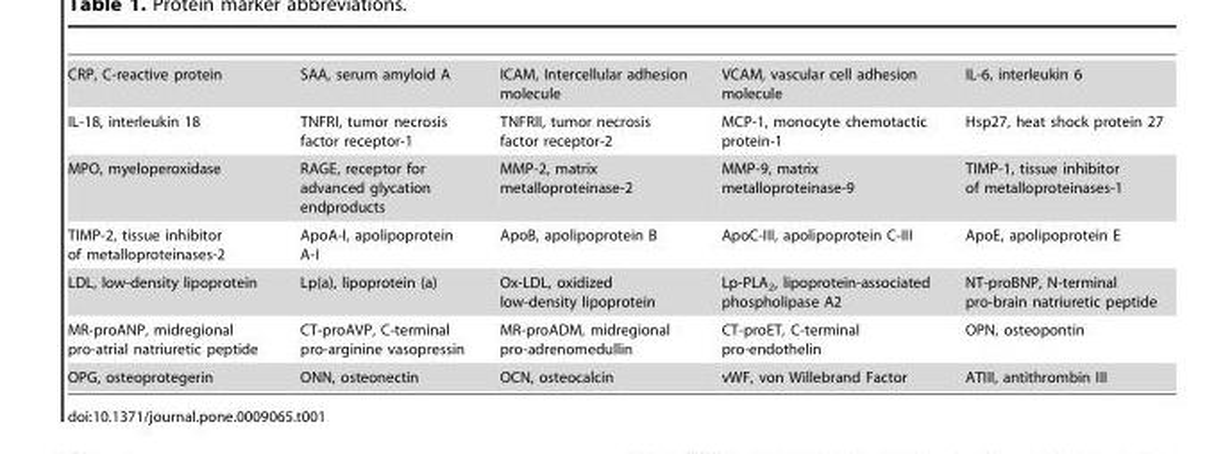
<table><tbody><tr><td>CRP, C-reactive protein</td><td>SAA, serum amyloid A</td><td>ICAM, Intercellular adhesion molecule</td><td>VCAM, vascular cell adhesion molecule</td><td>IL-6, interleukin 6</td></tr><tr><td>IL-18, interleukin 18</td><td>TNFRI, tumor necrosis factor receptor-1</td><td>TNFRII, tumor necrosis factor receptor-2</td><td>MCP-1, monocyte chemotactic protein-1</td><td>Hsp27, heat shock protein 27</td></tr><tr><td>MPO, myeloperoxidase</td><td>RAGE, receptor for advanced glycation endproducts</td><td>MMP-2, matrix metalloproteinase-2</td><td>MMP-9, matrix metalloproteinase-9</td><td>TIMP-1, tissue inhibitor of metalloproteinases-1</td></tr><tr><td>TIMP-2, tissue inhibitor of metalloproteinases-2</td><td>ApoA-I, apolipoprotein A-I</td><td>ApoB, apolipoprotein B</td><td>ApoC-III, apolipoprotein C-III</td><td>ApoE, apolipoprotein E</td></tr><tr><td>LDL, low-density lipoprotein</td><td>Lp(a), lipoprotein (a)</td><td>Ox-LDL, oxidized low-density lipoprotein</td><td>Lp-PLA<sub>2</sub>, lipoprotein-associated phospholipase A2</td><td>NT-proBNP, N-terminal pro-brain natriuretic peptide</td></tr><tr><td>MR-proANP, midregional pro-atrial natriuretic peptide</td><td>CT-proAVP, C-terminal pro-arginine vasopressin</td><td>MR-proADM, midregional pro-adrenomedullin</td><td>CT-proET, C-terminal pro-endothelin</td><td>OPN, osteopontin</td></tr><tr><td>OPG, osteoprotegerin</td><td>ONN, osteonectin</td><td>OCN, osteocalcin</td><td>vWF, von Willebrand Factor</td><td>ATIII, antithrombin III</td></tr></tbody></table>